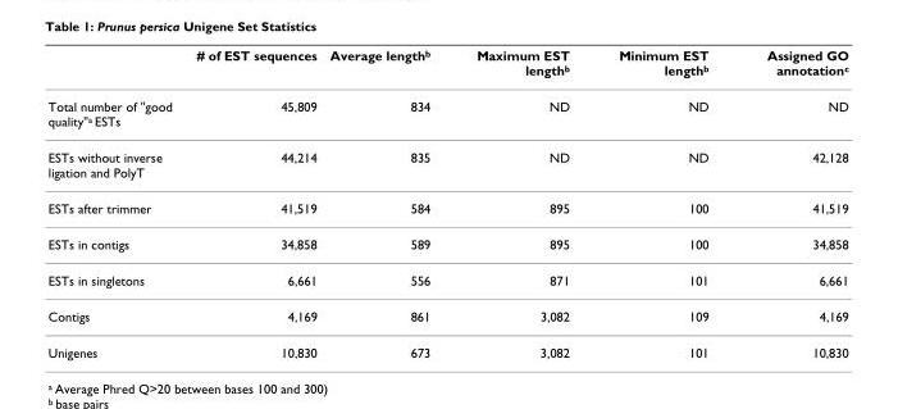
<table><thead><tr><td></td><td># of EST sequences</td><td>Average length<sup>b</sup></td><td>Maximum EST length<sup>b</sup></td><td>Minimum EST length<sup>b</sup></td><td>Assigned GO annotation<sup>c</sup></td></tr></thead><tbody><tr><td>Total number of &quot;good quality&quot;<sup>a</sup> ESTs</td><td>45,809</td><td>834</td><td>ND</td><td>ND</td><td>ND</td></tr><tr><td>ESTs without inverse ligation and PolyT</td><td>44,214</td><td>835</td><td>ND</td><td>ND</td><td>42,128</td></tr><tr><td>ESTs after trimmer</td><td>41,519</td><td>584</td><td>895</td><td>100</td><td>41,519</td></tr><tr><td>ESTs in contigs</td><td>34,858</td><td>589</td><td>895</td><td>100</td><td>34,858</td></tr><tr><td>ESTs in singletons</td><td>6,661</td><td>556</td><td>871</td><td>101</td><td>6,661</td></tr><tr><td>Contigs</td><td>4,169</td><td>861</td><td>3,082</td><td>109</td><td>4,169</td></tr><tr><td>Unigenes</td><td>10,830</td><td>673</td><td>3,082</td><td>101</td><td>10,830</td></tr></tbody></table>